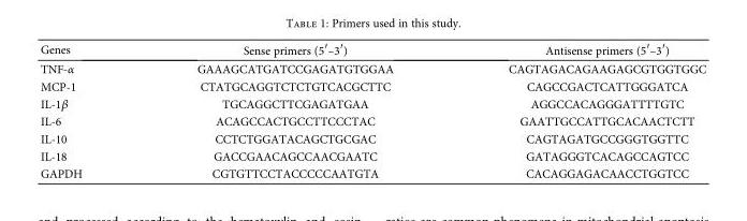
<table><thead><tr><td>Genes</td><td>Sense primers (5′–3′)</td><td>Antisense primers (5′–3′)</td></tr></thead><tbody><tr><td>TNF-α</td><td>GAAAGCATGATCCGAGATGTGGAA</td><td>CAGTAGACAGAAGAGCGTGGTGGC</td></tr><tr><td>MCP-1</td><td>CTATGCAGGTCTCTGTCACGCTTC</td><td>CAGCCGACTCATTGGGATCA</td></tr><tr><td>IL-1β</td><td>TGCAGGCTTCGAGATGAA</td><td>AGGCCACAGGGATTTTGTC</td></tr><tr><td>IL-6</td><td>ACAGCCACTGCCTTCCCTAC</td><td>GAATTGCCATTGCACAACTCTT</td></tr><tr><td>IL-10</td><td>CCTCTGGATACAGCTGCGAC</td><td>CAGTAGATGCCGGGTGGTTC</td></tr><tr><td>IL-18</td><td>GACCGAACAGCCAACGAATC</td><td>GATAGGGTCACAGCCAGTCC</td></tr><tr><td>GAPDH</td><td>CGTGTTCCTACCCCCAATGTA</td><td>CACAGGAGACAACCTGGTCC</td></tr></tbody></table>